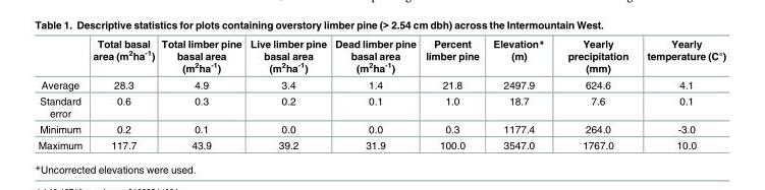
<table><thead><tr><td></td><td>Total basal area (m<sup>2</sup>ha<sup>-1</sup>)</td><td>Total limber pine basal area (m<sup>2</sup>ha<sup>-1</sup>)</td><td>Live limber pine basal area (m<sup>2</sup>ha<sup>-1</sup>)</td><td>Dead limber pine basal area (m<sup>2</sup>ha<sup>-1</sup>)</td><td>Percent limber pine</td><td>Elevation* (m)</td><td>Yearly precipitation (mm)</td><td>Yearly temperature (C°)</td></tr></thead><tbody><tr><td>Average</td><td>28.3</td><td>4.9</td><td>3.4</td><td>1.4</td><td>21.8</td><td>2497.9</td><td>624.6</td><td>4.1</td></tr><tr><td>Standard error</td><td>0.6</td><td>0.3</td><td>0.2</td><td>0.1</td><td>1.0</td><td>18.7</td><td>7.6</td><td>0.1</td></tr><tr><td>Minimum</td><td>0.2</td><td>0.1</td><td>0.0</td><td>0.0</td><td>0.3</td><td>1177.4</td><td>264.0</td><td>-3.0</td></tr><tr><td>Maximum</td><td>117.7</td><td>43.9</td><td>39.2</td><td>31.9</td><td>100.0</td><td>3547.0</td><td>1767.0</td><td>10.0</td></tr></tbody></table>